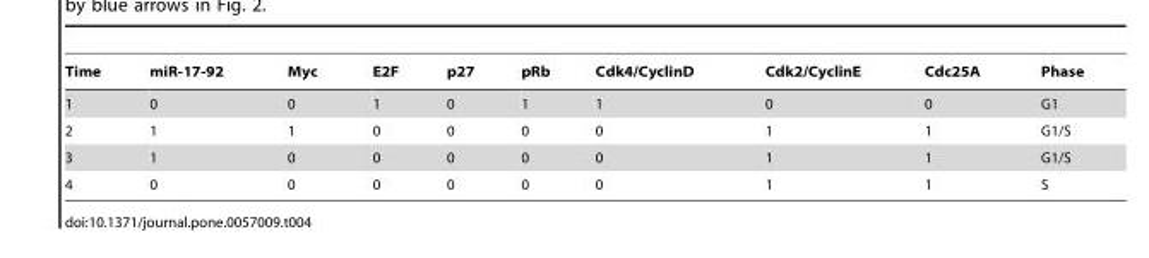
<table><thead><tr><td>Time</td><td>miR-17-92</td><td>Myc</td><td>E2F</td><td>p27</td><td>pRb</td><td>Cdk4/CyclinD</td><td>Cdk2/CyclinE</td><td>Cdc25A</td><td>Phase</td></tr></thead><tbody><tr><td>1</td><td>0</td><td>0</td><td>1</td><td>0</td><td>1</td><td>1</td><td>0</td><td>0</td><td>G1</td></tr><tr><td>2</td><td>1</td><td>1</td><td>0</td><td>0</td><td>0</td><td>0</td><td>1</td><td>1</td><td>G1/S</td></tr><tr><td>3</td><td>1</td><td>0</td><td>0</td><td>0</td><td>0</td><td>0</td><td>1</td><td>1</td><td>G1/S</td></tr><tr><td>4</td><td>0</td><td>0</td><td>0</td><td>0</td><td>0</td><td>0</td><td>1</td><td>1</td><td>S</td></tr></tbody></table>